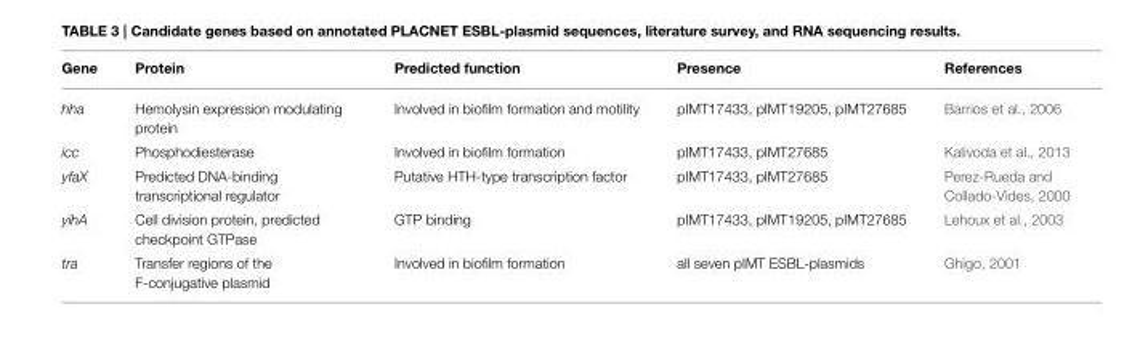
<table><thead><tr><td>Gene</td><td>Protein</td><td>Predicted function</td><td>Presence</td><td>References</td></tr></thead><tbody><tr><td>hha</td><td>Hemolysin expression modulating protein</td><td>Involved in biofilm formation and motility</td><td>pIMT17433, pIMT19205, pIMT27685</td><td>Barrios et al., 2006</td></tr><tr><td>icc</td><td>Phosphodiesterase</td><td>Involved in biofilm formation</td><td>pIMT17433, pIMT27685</td><td>Kalivoda et al., 2013</td></tr><tr><td>yfaX</td><td>Predicted DNA-binding transcriptional regulator</td><td>Putative HTH-type transcription factor</td><td>pIMT17433, pIMT27685</td><td>Perez-Rueda and Collado-Vides, 2000</td></tr><tr><td>yihA</td><td>Cell division protein, predicted checkpoint GTPase</td><td>GTP binding</td><td>pIMT17433, pIMT19205, pIMT27685</td><td>Lehoux et al., 2003</td></tr><tr><td>tra</td><td>Transfer regions of the F-conjugative plasmid</td><td>Involved in biofilm formation</td><td>all seven pIMT ESBL-plasmids</td><td>Ghigo, 2001</td></tr></tbody></table>